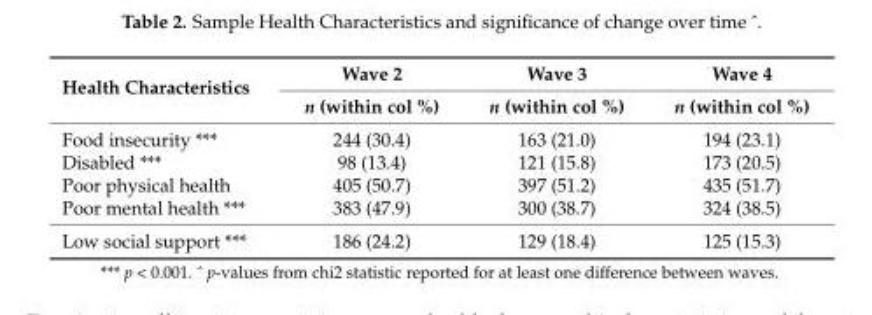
<table><thead><tr><td rowspan="2">Health Characteristics</td><td rowspan="2">Wave 2 n (within col %)</td><td rowspan="2">Wave 3 n (within col %)</td><td rowspan="2">Wave 4 n (within col %)</td></tr><tr></tr></thead><tbody><tr><td>Food insecurity ***</td><td>244 (30.4)</td><td>163 (21.0)</td><td>194 (23.1)</td></tr><tr><td>Disabled ***</td><td>98 (13.4)</td><td>121 (15.8)</td><td>173 (20.5)</td></tr><tr><td>Poor physical health</td><td>405 (50.7)</td><td>397 (51.2)</td><td>435 (51.7)</td></tr><tr><td>Poor mental health ***</td><td>383 (47.9)</td><td>300 (38.7)</td><td>324 (38.5)</td></tr><tr><td>Low social support ***</td><td>186 (24.2)</td><td>129 (18.4)</td><td>125 (15.3)</td></tr></tbody></table>